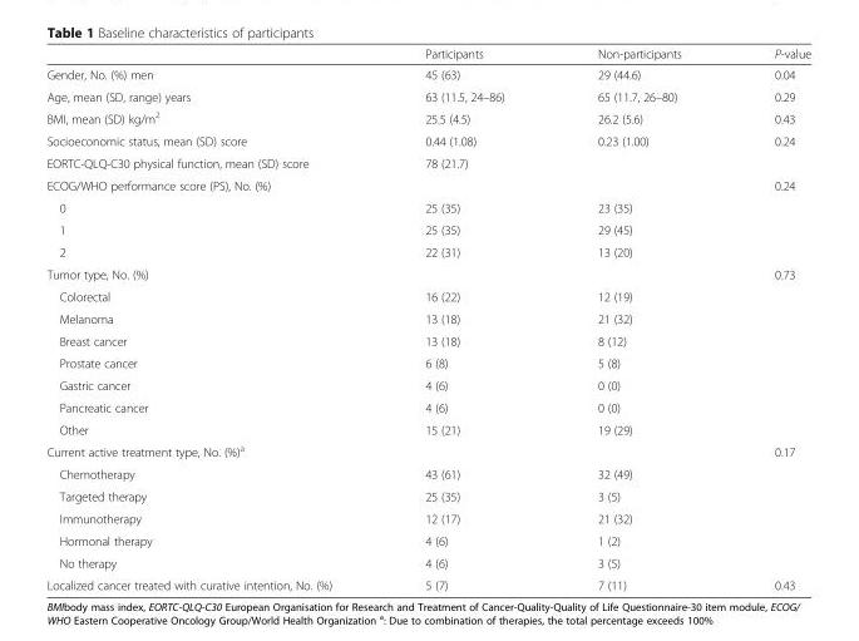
<table><thead><tr><td></td><td>Participants</td><td>Non-participants</td><td>P-value</td></tr></thead><tbody><tr><td>Gender, No. (%) men</td><td>45 (63)</td><td>29 (44.6)</td><td>0.04</td></tr><tr><td>Age, mean (SD, range) years</td><td>63 (11.5, 24–86)</td><td>65 (11.7, 26–80)</td><td>0.29</td></tr><tr><td>BMI, mean (SD) kg/m<sup>2</sup></td><td>25.5 (4.5)</td><td>26.2 (5.6)</td><td>0.43</td></tr><tr><td>Socioeconomic status, mean (SD) score</td><td>0.44 (1.08)</td><td>0.23 (1.00)</td><td>0.24</td></tr><tr><td>EORTC-QLQ-C30 physical function, mean (SD) score</td><td>78 (21.7)</td><td></td><td></td></tr><tr><td colspan="3">ECOG/WHO performance score (PS), No. (%)</td><td>0.24</td></tr><tr><td>0</td><td>25 (35)</td><td>23 (35)</td><td></td></tr><tr><td>1</td><td>25 (35)</td><td>29 (45)</td><td></td></tr><tr><td>2</td><td>22 (31)</td><td>13 (20)</td><td></td></tr><tr><td colspan="3">Tumor type, No. (%)</td><td>0.73</td></tr><tr><td>Colorectal</td><td>16 (22)</td><td>12 (19)</td><td></td></tr><tr><td>Melanoma</td><td>13 (18)</td><td>21 (32)</td><td></td></tr><tr><td>Breast cancer</td><td>13 (18)</td><td>8 (12)</td><td></td></tr><tr><td>Prostate cancer</td><td>6 (8)</td><td>5 (8)</td><td></td></tr><tr><td>Gastric cancer</td><td>4 (6)</td><td>0 (0)</td><td></td></tr><tr><td>Pancreatic cancer</td><td>4 (6)</td><td>0 (0)</td><td></td></tr><tr><td>Other</td><td>15 (21)</td><td>19 (29)</td><td></td></tr><tr><td colspan="3">Current active treatment type, No. (%)<sup>a</sup></td><td>0.17</td></tr><tr><td>Chemotherapy</td><td>43 (61)</td><td>32 (49)</td><td></td></tr><tr><td>Targeted therapy</td><td>25 (35)</td><td>3 (5)</td><td></td></tr><tr><td>Immunotherapy</td><td>12 (17)</td><td>21 (32)</td><td></td></tr><tr><td>Hormonal therapy</td><td>4 (6)</td><td>1 (2)</td><td></td></tr><tr><td>No therapy</td><td>4 (6)</td><td>3 (5)</td><td></td></tr><tr><td>Localized cancer treated with curative intention, No. (%)</td><td>5 (7)</td><td>7 (11)</td><td>0.43</td></tr></tbody></table>